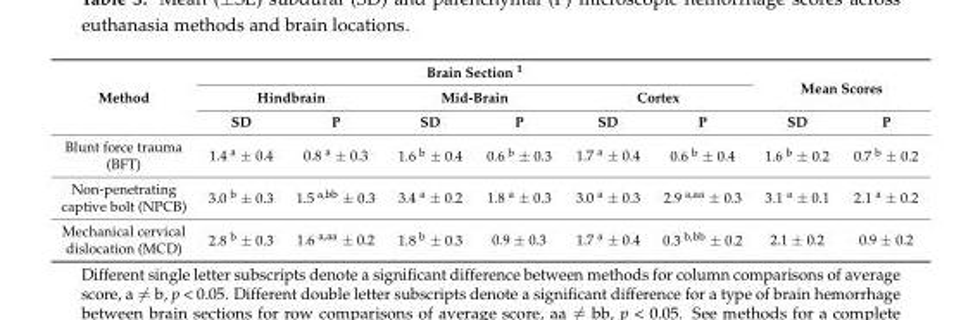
<table><thead><tr><td rowspan="3">Method</td><td colspan="6">Brain Section <sup>1</sup></td><td rowspan="2" colspan="2">Mean Scores</td></tr><tr><td colspan="2">Hindbrain</td><td colspan="2">Mid-Brain</td><td colspan="2">Cortex</td></tr><tr><td>SD</td><td>P</td><td>SD</td><td>P</td><td>SD</td><td>P</td><td>SD</td><td>P</td></tr></thead><tbody><tr><td>Blunt force trauma (BFT)</td><td>1.4 <sup>a</sup> ± 0.4</td><td>0.8 <sup>a</sup> ± 0.3</td><td>1.6 <sup>b</sup> ± 0.4</td><td>0.6 <sup>b</sup> ± 0.3</td><td>1.7 <sup>a</sup> ± 0.4</td><td>0.6 <sup>b</sup> ± 0.4</td><td>1.6 <sup>b</sup> ± 0.2</td><td>0.7 <sup>b</sup> ± 0.2</td></tr><tr><td>Non-penetrating captive bolt (NPCB)</td><td>3.0 <sup>b</sup> ± 0.3</td><td>1.5 <sup>a,bb</sup> ± 0.3</td><td>3.4 <sup>a</sup> ± 0.2</td><td>1.8 <sup>a</sup> ± 0.3</td><td>3.0 <sup>a</sup> ± 0.3</td><td>2.9 <sup>a,aa</sup> ± 0.3</td><td>3.1 <sup>a</sup> ± 0.1</td><td>2.1 <sup>a</sup> ± 0.2</td></tr><tr><td>Mechanical cervical dislocation (MCD)</td><td>2.8 <sup>b</sup> ± 0.3</td><td>1.6 <sup>a,aa</sup> ± 0.2</td><td>1.8 <sup>b</sup> ± 0.3</td><td>0.9 ± 0.3</td><td>1.7 <sup>a</sup> ± 0.4</td><td>0.3 <sup>b,bb</sup> ± 0.2</td><td>2.1 ± 0.2</td><td>0.9 ± 0.2</td></tr></tbody></table>